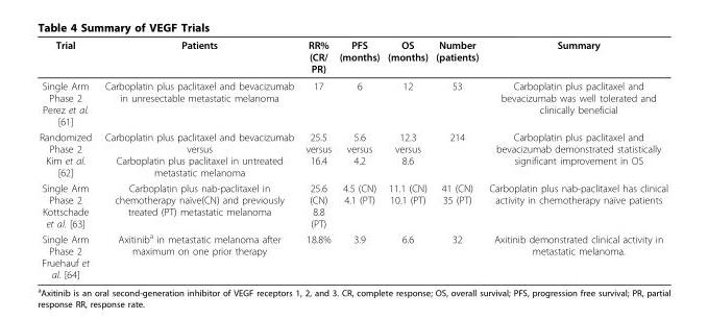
<table><thead><tr><td>Trial</td><td>Patients</td><td>RR% (CR/ PR)</td><td>PFS (months)</td><td>OS (months)</td><td>Number (patients)</td><td>Summary</td></tr></thead><tbody><tr><td>Single Arm Phase 2 Perez et al. [61]</td><td>Carboplatin plus paclitaxel and bevacizumab in unresectable metastatic melanoma</td><td>17</td><td>6</td><td>12</td><td>53</td><td>Carboplatin plus paclitaxel and bevacizumab was well tolerated and clinically beneficial</td></tr><tr><td>Randomized Phase 2 Kim et al. [62]</td><td>Carboplatin plus paclitaxel and bevacizumab versus Carboplatin plus paclitaxel in untreated metastatic melanoma</td><td>25.5 versus 16.4</td><td>5.6 versus 4.2</td><td>12.3 versus 8.6</td><td>214</td><td>Carboplatin plus paclitaxel and bevacizumab demonstrated statistically significant improvement in OS</td></tr><tr><td>Single Arm Phase 2 Kottschade et al. [63]</td><td>Carboplatin plus nab-paclitaxel in chemotherapy naïve(CN) and previously treated (PT) metastatic melanoma</td><td>25.6 (CN) 8.8 (PT)</td><td>4.5 (CN) 4.1 (PT)</td><td>11.1 (CN) 10.1 (PT)</td><td>41 (CN) 35 (PT)</td><td>Carboplatin plus nab-paclitaxel has clinical activity in chemotherapy naïve patients</td></tr><tr><td>Single Arm Phase 2 Fruehauf et al. [64]</td><td>Axitinib<sup>a</sup> in metastatic melanoma after maximum on one prior therapy</td><td>18.8%</td><td>3.9</td><td>6.6</td><td>32</td><td>Axitinib demonstrated clinical activity in metastatic melanoma.</td></tr></tbody></table>